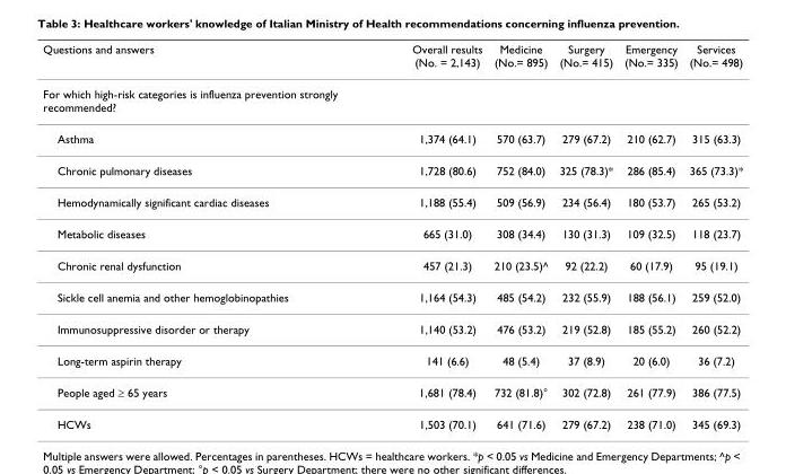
<table><thead><tr><td>Questions and answers</td><td>Overall results (No. = 2,143)</td><td>Medicine (No.= 895)</td><td>Surgery (No.= 415)</td><td>Emergency (No.= 335)</td><td>Services (No.= 498)</td></tr></thead><tbody><tr><td colspan="6">For which high-risk categories is influenza prevention strongly recommended?</td></tr><tr><td>Asthma</td><td>1,374 (64.1)</td><td>570 (63.7)</td><td>279 (67.2)</td><td>210 (62.7)</td><td>315 (63.3)</td></tr><tr><td>Chronic pulmonary diseases</td><td>1,728 (80.6)</td><td>752 (84.0)</td><td>325 (78.3)*</td><td>286 (85.4)</td><td>365 (73.3)*</td></tr><tr><td>Hemodynamically significant cardiac diseases</td><td>1,188 (55.4)</td><td>509 (56.9)</td><td>234 (56.4)</td><td>180 (53.7)</td><td>265 (53.2)</td></tr><tr><td>Metabolic diseases</td><td>665 (31.0)</td><td>308 (34.4)</td><td>130 (31.3)</td><td>109 (32.5)</td><td>118 (23.7)</td></tr><tr><td>Chronic renal dysfunction</td><td>457 (21.3)</td><td>210 (23.5)^</td><td>92 (22.2)</td><td>60 (17.9)</td><td>95 (19.1)</td></tr><tr><td>Sickle cell anemia and other hemoglobinopathies</td><td>1,164 (54.3)</td><td>485 (54.2)</td><td>232 (55.9)</td><td>188 (56.1)</td><td>259 (52.0)</td></tr><tr><td>Immunosuppressive disorder or therapy</td><td>1,140 (53.2)</td><td>476 (53.2)</td><td>219 (52.8)</td><td>185 (55.2)</td><td>260 (52.2)</td></tr><tr><td>Long-term aspirin therapy</td><td>141 (6.6)</td><td>48 (5.4)</td><td>37 (8.9)</td><td>20 (6.0)</td><td>36 (7.2)</td></tr><tr><td>People aged ≥ 65 years</td><td>1,681 (78.4)</td><td>732 (81.8)°</td><td>302 (72.8)</td><td>261 (77.9)</td><td>386 (77.5)</td></tr><tr><td>HCWs</td><td>1,503 (70.1)</td><td>641 (71.6)</td><td>279 (67.2)</td><td>238 (71.0)</td><td>345 (69.3)</td></tr></tbody></table>